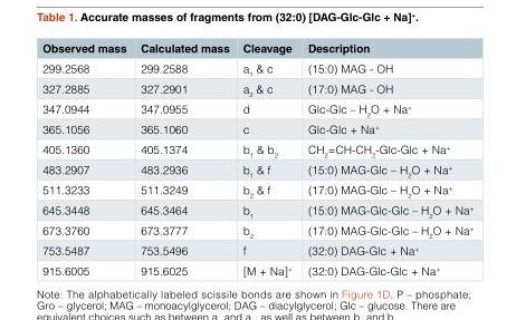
<table><thead><tr><td>Observed mass</td><td>Calculated mass</td><td>Cleavage</td><td>Description</td></tr></thead><tbody><tr><td>299.2568</td><td>299.2588</td><td>a<sub>1</sub> &amp; c</td><td>(15:0) MAG - OH</td></tr><tr><td>327.2885</td><td>327.2901</td><td>a<sub>2</sub> &amp; c</td><td>(17:0) MAG - OH</td></tr><tr><td>347.0944</td><td>347.0955</td><td>d</td><td>Glc-Glc – H<sub>2</sub>O + Na<sup>+</sup></td></tr><tr><td>365.1056</td><td>365.1060</td><td>c</td><td>Glc-Glc + Na<sup>+</sup></td></tr><tr><td>405.1360</td><td>405.1374</td><td>b<sub>1</sub> &amp; b<sub>2</sub></td><td>CH<sub>2</sub>=CH-CH<sub>2</sub>-Glc-Glc + Na<sup>+</sup></td></tr><tr><td>483.2907</td><td>483.2936</td><td>b<sub>1</sub> &amp; f</td><td>(15:0) MAG-Glc – H<sub>2</sub>O + Na<sup>+</sup></td></tr><tr><td>511.3233</td><td>511.3249</td><td>b<sub>2</sub> &amp; f</td><td>(17:0) MAG-Glc – H<sub>2</sub>O + Na<sup>+</sup></td></tr><tr><td>645.3448</td><td>645.3464</td><td>b<sub>1</sub></td><td>(15:0) MAG-Glc-Glc – H<sub>2</sub>O + Na<sup>+</sup></td></tr><tr><td>673.3760</td><td>673.3777</td><td>b<sub>2</sub></td><td>(17:0) MAG-Glc-Glc – H<sub>2</sub>O + Na<sup>+</sup></td></tr><tr><td>753.5487</td><td>753.5496</td><td>f</td><td>(32:0) DAG-Glc + Na<sup>+</sup></td></tr><tr><td>915.6005</td><td>915.6025</td><td>[M + Na]<sup>+</sup></td><td>(32:0) DAG-Glc-Glc + Na<sup>+</sup></td></tr></tbody></table>